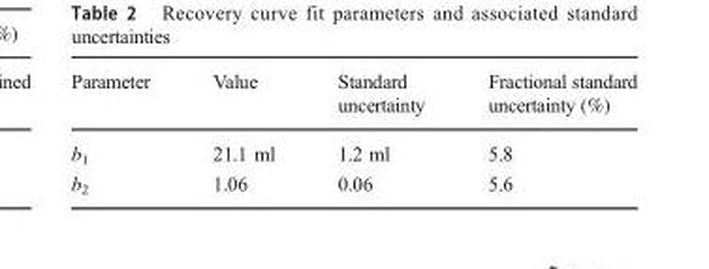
<table><thead><tr><td>Parameter</td><td>Value</td><td>Standard uncertainty</td><td>Fractional standard uncertainty (%)</td></tr></thead><tbody><tr><td>b<sub>1</sub></td><td>21.1 ml</td><td>1.2 ml</td><td>5.8</td></tr><tr><td>b<sub>2</sub></td><td>1.06</td><td>0.06</td><td>5.6</td></tr></tbody></table>